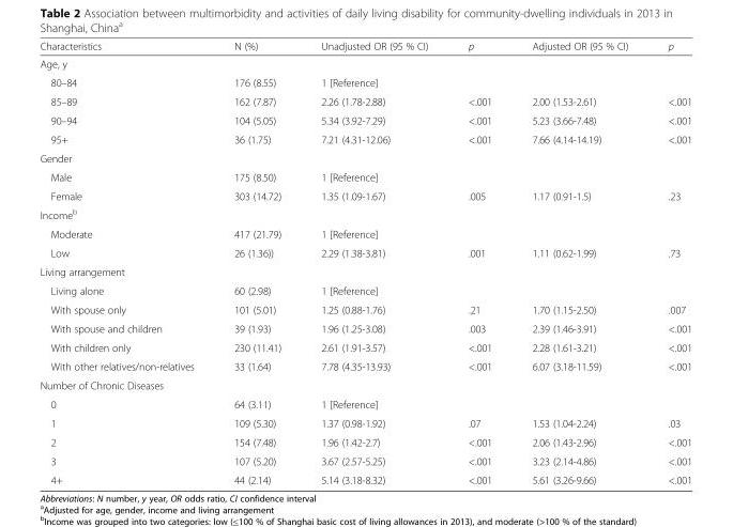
<table><thead><tr><td>Characteristics</td><td>N (%)</td><td>Unadjusted OR (95 % CI)</td><td>p</td><td>Adjusted OR (95 % CI)</td><td>p</td></tr></thead><tbody><tr><td colspan="6">Age, y</td></tr><tr><td>80–84</td><td>176 (8.55)</td><td colspan="4">1 [Reference]</td></tr><tr><td>85–89</td><td>162 (7.87)</td><td>2.26 (1.78-2.88)</td><td>&lt;.001</td><td>2.00 (1.53-2.61)</td><td>&lt;.001</td></tr><tr><td>90–94</td><td>104 (5.05)</td><td>5.34 (3.92-7.29)</td><td>&lt;.001</td><td>5.23 (3.66-7.48)</td><td>&lt;.001</td></tr><tr><td>95+</td><td>36 (1.75)</td><td>7.21 (4.31-12.06)</td><td>&lt;.001</td><td>7.66 (4.14-14.19)</td><td>&lt;.001</td></tr><tr><td colspan="6">Gender</td></tr><tr><td>Male</td><td>175 (8.50)</td><td colspan="4">1 [Reference]</td></tr><tr><td>Female</td><td>303 (14.72)</td><td>1.35 (1.09-1.67)</td><td>.005</td><td>1.17 (0.91-1.5)</td><td>.23</td></tr><tr><td colspan="6">Income<sup>b</sup></td></tr><tr><td>Moderate</td><td>417 (21.79)</td><td colspan="4">1 [Reference]</td></tr><tr><td>Low</td><td>26 (1.36))</td><td>2.29 (1.38-3.81)</td><td>.001</td><td>1.11 (0.62-1.99)</td><td>.73</td></tr><tr><td colspan="6">Living arrangement</td></tr><tr><td>Living alone</td><td>60 (2.98)</td><td colspan="4">1 [Reference]</td></tr><tr><td>With spouse only</td><td>101 (5.01)</td><td>1.25 (0.88-1.76)</td><td>.21</td><td>1.70 (1.15-2.50)</td><td>.007</td></tr><tr><td>With spouse and children</td><td>39 (1.93)</td><td>1.96 (1.25-3.08)</td><td>.003</td><td>2.39 (1.46-3.91)</td><td>&lt;.001</td></tr><tr><td>With children only</td><td>230 (11.41)</td><td>2.61 (1.91-3.57)</td><td>&lt;.001</td><td>2.28 (1.61-3.21)</td><td>&lt;.001</td></tr><tr><td>With other relatives/non-relatives</td><td>33 (1.64)</td><td>7.78 (4.35-13.93)</td><td>&lt;.001</td><td>6.07 (3.18-11.59)</td><td>&lt;.001</td></tr><tr><td colspan="6">Number of Chronic Diseases</td></tr><tr><td>0</td><td>64 (3.11)</td><td colspan="4">1 [Reference]</td></tr><tr><td>1</td><td>109 (5.30)</td><td>1.37 (0.98-1.92)</td><td>.07</td><td>1.53 (1.04-2.24)</td><td>.03</td></tr><tr><td>2</td><td>154 (7.48)</td><td>1.96 (1.42-2.7)</td><td>&lt;.001</td><td>2.06 (1.43-2.96)</td><td>&lt;.001</td></tr><tr><td>3</td><td>107 (5.20)</td><td>3.67 (2.57-5.25)</td><td>&lt;.001</td><td>3.23 (2.14-4.86)</td><td>&lt;.001</td></tr><tr><td>4+</td><td>44 (2.14)</td><td>5.14 (3.18-8.32)</td><td>&lt;.001</td><td>5.61 (3.26-9.66)</td><td>&lt;.001</td></tr></tbody></table>